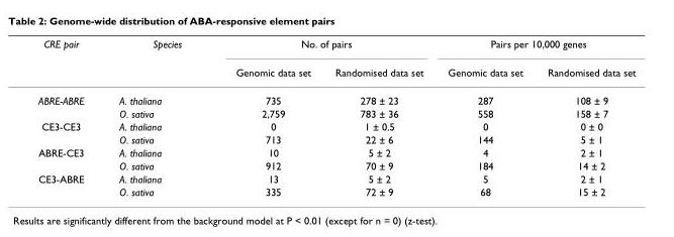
<table><thead><tr><td rowspan="2">CRE pair</td><td rowspan="2">Species</td><td colspan="2">No. of pairs</td><td colspan="2">Pairs per 10,000 genes</td></tr><tr><td>Genomic data set</td><td>Randomised data set</td><td>Genomic data set</td><td>Randomised data set</td></tr></thead><tbody><tr><td rowspan="2">ABRE-ABRE</td><td>A. thaliana</td><td>735</td><td>278 ± 23</td><td>287</td><td>108 ± 9</td></tr><tr><td>O. sativa</td><td>2,759</td><td>783 ± 36</td><td>558</td><td>158 ± 7</td></tr><tr><td rowspan="2">CE3-CE3</td><td>A. thaliana</td><td>0</td><td>1 ± 0.5</td><td>0</td><td>0 ± 0</td></tr><tr><td>O. sativa</td><td>713</td><td>22 ± 6</td><td>144</td><td>5 ± 1</td></tr><tr><td rowspan="2">ABRE-CE3</td><td>A. thaliana</td><td>10</td><td>5 ± 2</td><td>4</td><td>2 ± 1</td></tr><tr><td>O. sativa</td><td>912</td><td>70 ± 9</td><td>184</td><td>14 ± 2</td></tr><tr><td rowspan="2">CE3-ABRE</td><td>A. thaliana</td><td>13</td><td>5 ± 2</td><td>5</td><td>2 ± 1</td></tr><tr><td>O. sativa</td><td>335</td><td>72 ± 9</td><td>68</td><td>15 ± 2</td></tr></tbody></table>